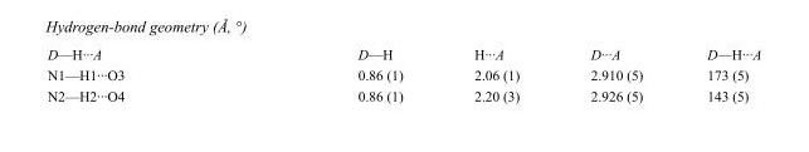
<table><tbody><tr><td>D—H···A</td><td>D—H</td><td>H···A</td><td>D···A</td><td>D—H···A</td></tr><tr><td>N1—H1···O3</td><td>0.86 (1)</td><td>2.06 (1)</td><td>2.910 (5)</td><td>173 (5)</td></tr><tr><td>N2—H2···O4</td><td>0.86 (1)</td><td>2.20 (3)</td><td>2.926 (5)</td><td>143 (5)</td></tr></tbody></table>